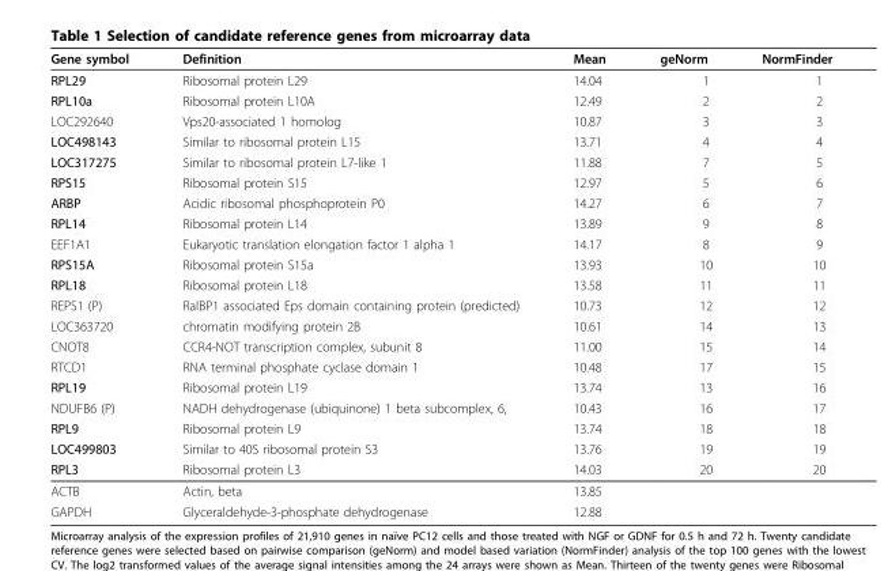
<table><thead><tr><td>Gene symbol</td><td>Definition</td><td>Mean</td><td>geNorm</td><td>NormFinder</td></tr></thead><tbody><tr><td>RPL29</td><td>Ribosomal protein L29</td><td>14.04</td><td>1</td><td>1</td></tr><tr><td>RPL10a</td><td>Ribosomal protein L10A</td><td>12.49</td><td>2</td><td>2</td></tr><tr><td>LOC292640</td><td>Vps20-associated 1 homolog</td><td>10.87</td><td>3</td><td>3</td></tr><tr><td>LOC498143</td><td>Similar to ribosomal protein L15</td><td>13.71</td><td>4</td><td>4</td></tr><tr><td>LOC317275</td><td>Similar to ribosomal protein L7-like 1</td><td>11.88</td><td>7</td><td>5</td></tr><tr><td>RPS15</td><td>Ribosomal protein S15</td><td>12.97</td><td>5</td><td>6</td></tr><tr><td>ARBP</td><td>Acidic ribosomal phosphoprotein P0</td><td>14.27</td><td>6</td><td>7</td></tr><tr><td>RPL14</td><td>Ribosomal protein L14</td><td>13.89</td><td>9</td><td>8</td></tr><tr><td>EEF1A1</td><td>Eukaryotic translation elongation factor 1 alpha 1</td><td>14.17</td><td>8</td><td>9</td></tr><tr><td>RPS15A</td><td>Ribosomal protein S15a</td><td>13.93</td><td>10</td><td>10</td></tr><tr><td>RPL18</td><td>Ribosomal protein L18</td><td>13.58</td><td>11</td><td>11</td></tr><tr><td>REPS1 (P)</td><td>RalBP1 associated Eps domain containing protein (predicted)</td><td>10.73</td><td>12</td><td>12</td></tr><tr><td>LOC363720</td><td>chromatin modifying protein 2B</td><td>10.61</td><td>14</td><td>13</td></tr><tr><td>CNOT8</td><td>CCR4-NOT transcription complex, subunit 8</td><td>11.00</td><td>15</td><td>14</td></tr><tr><td>RTCD1</td><td>RNA terminal phosphate cyclase domain 1</td><td>10.48</td><td>17</td><td>15</td></tr><tr><td>RPL19</td><td>Ribosomal protein L19</td><td>13.74</td><td>13</td><td>16</td></tr><tr><td>NDUFB6 (P)</td><td>NADH dehydrogenase (ubiquinone) 1 beta subcomplex, 6,</td><td>10.43</td><td>16</td><td>17</td></tr><tr><td>RPL9</td><td>Ribosomal protein L9</td><td>13.74</td><td>18</td><td>18</td></tr><tr><td>LOC499803</td><td>Similar to 40S ribosomal protein S3</td><td>13.76</td><td>19</td><td>19</td></tr><tr><td>RPL3</td><td>Ribosomal protein L3</td><td>14.03</td><td>20</td><td>20</td></tr><tr><td>ACTB</td><td>Actin, beta</td><td>13.85</td><td></td><td></td></tr><tr><td>GAPDH</td><td>Glyceraldehyde-3-phosphate dehydrogenase</td><td>12.88</td><td></td><td></td></tr></tbody></table>